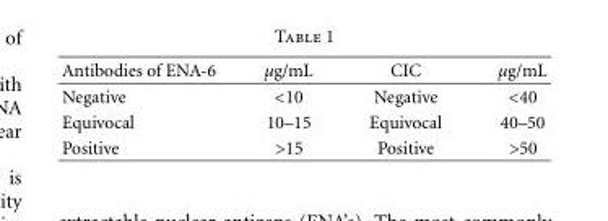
<table><thead><tr><td>Antibodies of ENA-6</td><td>µg/mL</td><td>CIC</td><td>µg/mL</td></tr></thead><tbody><tr><td>Negative</td><td>&lt;10</td><td>Negative</td><td>&lt;40</td></tr><tr><td>Equivocal</td><td>10–15</td><td>Equivocal</td><td>40–50</td></tr><tr><td>Positive</td><td>&gt;15</td><td>Positive</td><td>&gt;50</td></tr></tbody></table>